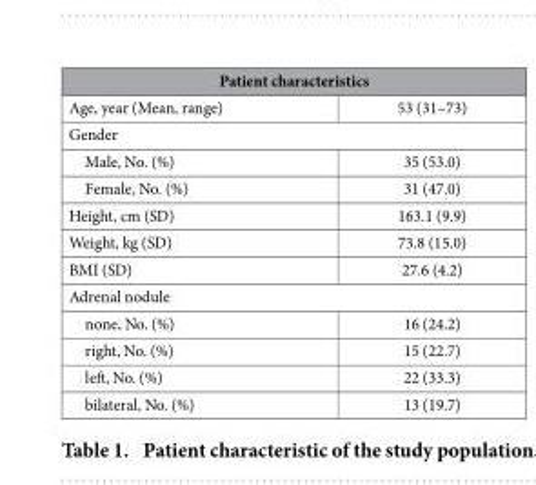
<table><thead><tr><td colspan="2">Patient characteristics</td></tr><tr><td>Age, year (Mean, range)</td><td>53 (31–73)</td></tr></thead><tbody><tr><td colspan="2">Gender</td></tr><tr><td>Male, No. (%)</td><td>35 (53.0)</td></tr><tr><td>Female, No. (%)</td><td>31 (47.0)</td></tr><tr><td>Height, cm (SD)</td><td>163.1 (9.9)</td></tr><tr><td>Weight, kg (SD)</td><td>73.8 (15.0)</td></tr><tr><td>BMI (SD)</td><td>27.6 (4.2)</td></tr><tr><td colspan="2">Adrenal nodule</td></tr><tr><td>none, No. (%)</td><td>16 (24.2)</td></tr><tr><td>right, No. (%)</td><td>15 (22.7)</td></tr><tr><td>left, No. (%)</td><td>22 (33.3)</td></tr><tr><td>bilateral, No. (%)</td><td>13 (19.7)</td></tr></tbody></table>